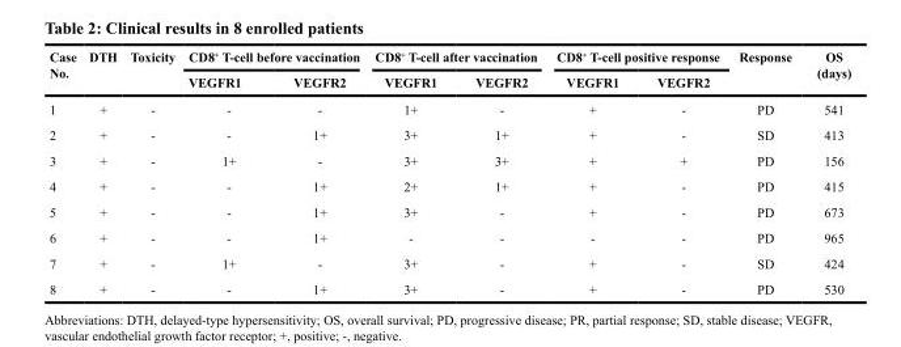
<table><thead><tr><td rowspan="2">Case No.</td><td rowspan="2">DTH</td><td rowspan="2">Toxicity</td><td colspan="2">CD8<sup>+</sup> T-cell before vaccination</td><td colspan="2">CD8<sup>+</sup> T-cell after vaccination</td><td colspan="2">CD8<sup>+</sup> T-cell positive response</td><td rowspan="2">Response</td><td rowspan="2">OS (days)</td></tr><tr><td>VEGFR1</td><td>VEGFR2</td><td>VEGFR1</td><td>VEGFR2</td><td>VEGFR1</td><td>VEGFR2</td></tr></thead><tbody><tr><td>1</td><td>+</td><td>-</td><td>-</td><td>-</td><td>1+</td><td>-</td><td>+</td><td>-</td><td>PD</td><td>541</td></tr><tr><td>2</td><td>+</td><td>-</td><td>-</td><td>1+</td><td>3+</td><td>1+</td><td>+</td><td>-</td><td>SD</td><td>413</td></tr><tr><td>3</td><td>+</td><td>-</td><td>1+</td><td>-</td><td>3+</td><td>3+</td><td>+</td><td>+</td><td>PD</td><td>156</td></tr><tr><td>4</td><td>+</td><td>-</td><td>-</td><td>1+</td><td>2+</td><td>1+</td><td>+</td><td>-</td><td>PD</td><td>415</td></tr><tr><td>5</td><td>+</td><td>-</td><td>-</td><td>1+</td><td>3+</td><td>-</td><td>+</td><td>-</td><td>PD</td><td>673</td></tr><tr><td>6</td><td>+</td><td>-</td><td>-</td><td>1+</td><td>-</td><td>-</td><td>-</td><td>-</td><td>PD</td><td>965</td></tr><tr><td>7</td><td>+</td><td>-</td><td>1+</td><td>-</td><td>3+</td><td>-</td><td>+</td><td>-</td><td>SD</td><td>424</td></tr><tr><td>8</td><td>+</td><td>-</td><td>-</td><td>1+</td><td>3+</td><td>-</td><td>+</td><td>-</td><td>PD</td><td>530</td></tr></tbody></table>